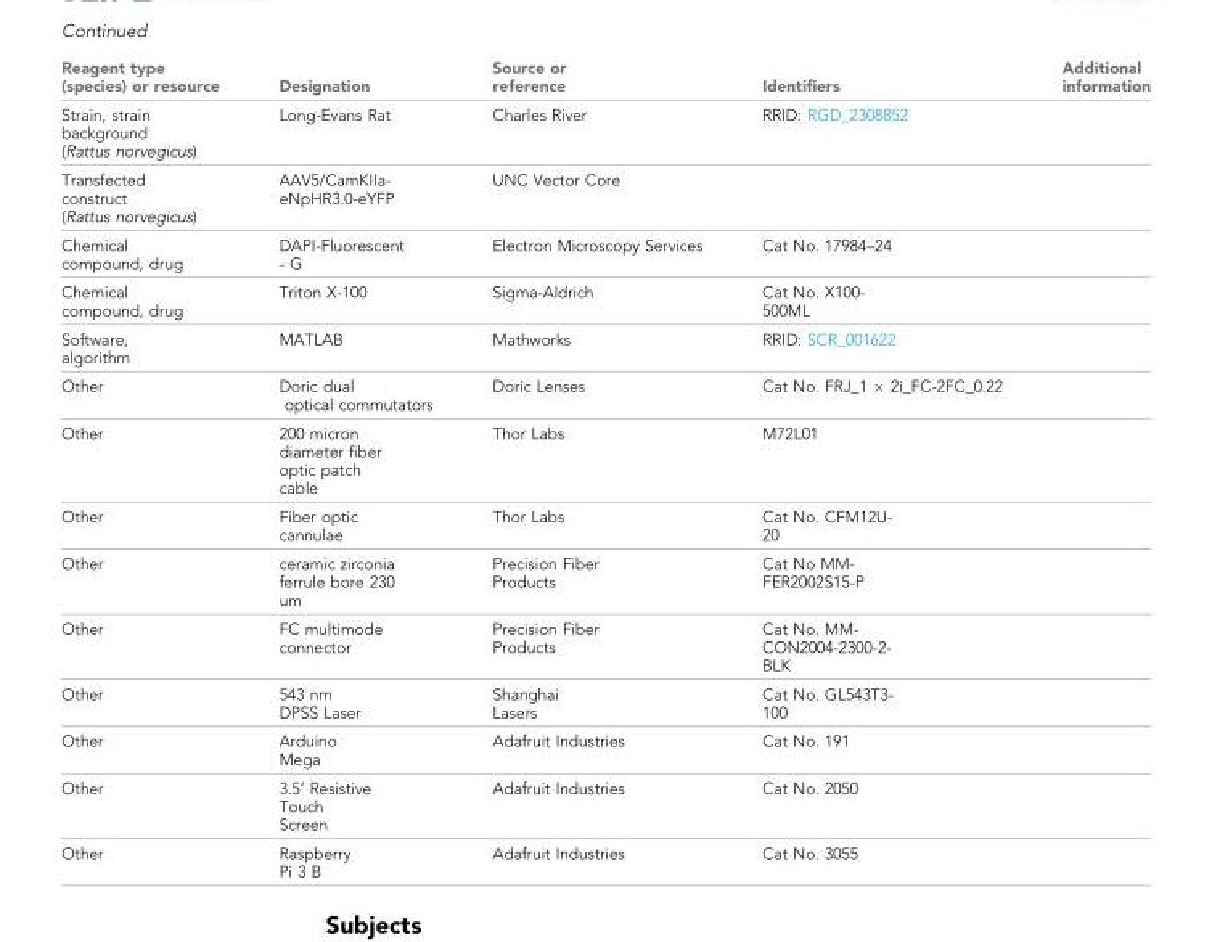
<table><thead><tr><td>Reagent type (species) or resource</td><td>Designation</td><td>Source or reference</td><td>Identifiers</td><td>Additional information</td></tr></thead><tbody><tr><td>Strain, strain background (Rattus norvegicus)</td><td>Long-Evans Rat</td><td>Charles River</td><td>RRID: RGD_2308852</td><td></td></tr><tr><td>Transfected construct (Rattus norvegicus)</td><td>AAV5/CamKIIa- eNpHR3.0-eYFP</td><td>UNC Vector Core</td><td></td><td></td></tr><tr><td>Chemical compound, drug</td><td>DAPI-Fluorescent - G</td><td>Electron Microscopy Services</td><td>Cat No. 17984–24</td><td></td></tr><tr><td>Chemical compound, drug</td><td>Triton X-100</td><td>Sigma-Aldrich</td><td>Cat No. X100- 500ML</td><td></td></tr><tr><td>Software, algorithm</td><td>MATLAB</td><td>Mathworks</td><td>RRID: SCR_001622</td><td></td></tr><tr><td>Other</td><td>Doric dual optical commutators</td><td>Doric Lenses</td><td>Cat No. FRJ_1 × 2i_FC-2FC_0.22</td><td></td></tr><tr><td>Other</td><td>200 micron diameter fiber optic patch cable</td><td>Thor Labs</td><td>M72L01</td><td></td></tr><tr><td>Other</td><td>Fiber optic cannulae</td><td>Thor Labs</td><td>Cat No. CFM12U- 20</td><td></td></tr><tr><td>Other</td><td>ceramic zirconia ferrule bore 230 um</td><td>Precision Fiber Products</td><td>Cat No MM- FER2002S15-P</td><td></td></tr><tr><td>Other</td><td>FC multimode connector</td><td>Precision Fiber Products</td><td>Cat No. MM- CON2004-2300-2- BLK</td><td></td></tr><tr><td>Other</td><td>543 nm DPSS Laser</td><td>Shanghai Lasers</td><td>Cat No. GL543T3- 100</td><td></td></tr><tr><td>Other</td><td>Arduino Mega</td><td>Adafruit Industries</td><td>Cat No. 191</td><td></td></tr><tr><td>Other</td><td>3.5’ Resistive Touch Screen</td><td>Adafruit Industries</td><td>Cat No. 2050</td><td></td></tr><tr><td>Other</td><td>Raspberry Pi 3 B</td><td>Adafruit Industries</td><td>Cat No. 3055</td><td></td></tr></tbody></table>